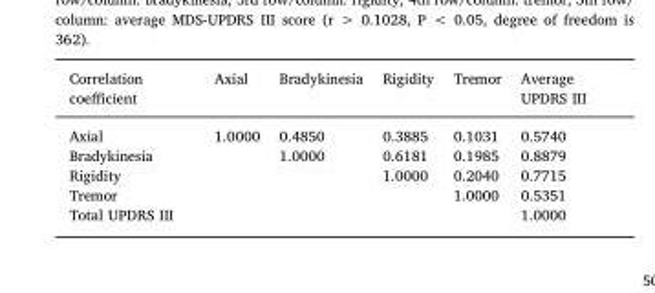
<table><thead><tr><td>Correlation coefficient</td><td>Axial</td><td>Bradykinesia</td><td>Rigidity</td><td>Tremor</td><td>Average UPDRS III</td></tr></thead><tbody><tr><td>Axial</td><td>1.0000</td><td>0.4850</td><td>0.3885</td><td>0.1031</td><td>0.5740</td></tr><tr><td>Bradykinesia</td><td></td><td>1.0000</td><td>0.6181</td><td>0.1985</td><td>0.8879</td></tr><tr><td>Rigidity</td><td></td><td></td><td>1.0000</td><td>0.2040</td><td>0.7715</td></tr><tr><td>Tremor</td><td></td><td></td><td></td><td>1.0000</td><td>0.5351</td></tr><tr><td>Total UPDRS III</td><td></td><td></td><td></td><td></td><td>1.0000</td></tr></tbody></table>